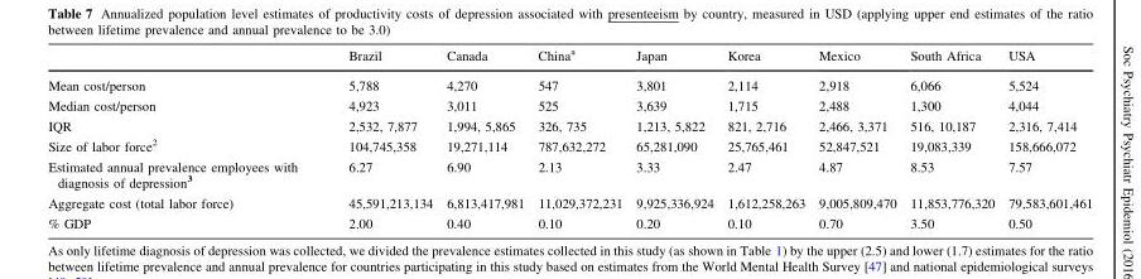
<table><thead><tr><td></td><td>Brazil</td><td>Canada</td><td>China<sup>a</sup></td><td>Japan</td><td>Korea</td><td>Mexico</td><td>South Africa</td><td>USA</td></tr></thead><tbody><tr><td>Mean cost/person</td><td>5,788</td><td>4,270</td><td>547</td><td>3,801</td><td>2,114</td><td>2,918</td><td>6,066</td><td>5,524</td></tr><tr><td>Median cost/person</td><td>4,923</td><td>3,011</td><td>525</td><td>3,639</td><td>1,715</td><td>2,488</td><td>1,300</td><td>4,044</td></tr><tr><td>IQR</td><td>2,532, 7,877</td><td>1,994, 5,865</td><td>326, 735</td><td>1,213, 5,822</td><td>821, 2,716</td><td>2,466, 3,371</td><td>516, 10,187</td><td>2,316, 7,414</td></tr><tr><td>Size of labor force<sup>2</sup></td><td>104,745,358</td><td>19,271,114</td><td>787,632,272</td><td>65,281,090</td><td>25,765,461</td><td>52,847,521</td><td>19,083,339</td><td>158,666,072</td></tr><tr><td>Estimated annual prevalence employees with diagnosis of depression<sup>3</sup></td><td>6.27</td><td>6.90</td><td>2.13</td><td>3.33</td><td>2.47</td><td>4.87</td><td>8.53</td><td>7.57</td></tr><tr><td>Aggregate cost (total labor force)</td><td>45,591,213,134</td><td>6,813,417,981</td><td>11,029,372,231</td><td>9,925,336,924</td><td>1,612,258,263</td><td>9,005,809,470</td><td>11,853,776,320</td><td>79,583,601,461</td></tr><tr><td>% GDP</td><td>2.00</td><td>0.40</td><td>0.10</td><td>0.20</td><td>0.10</td><td>0.70</td><td>3.50</td><td>0.50</td></tr></tbody></table>